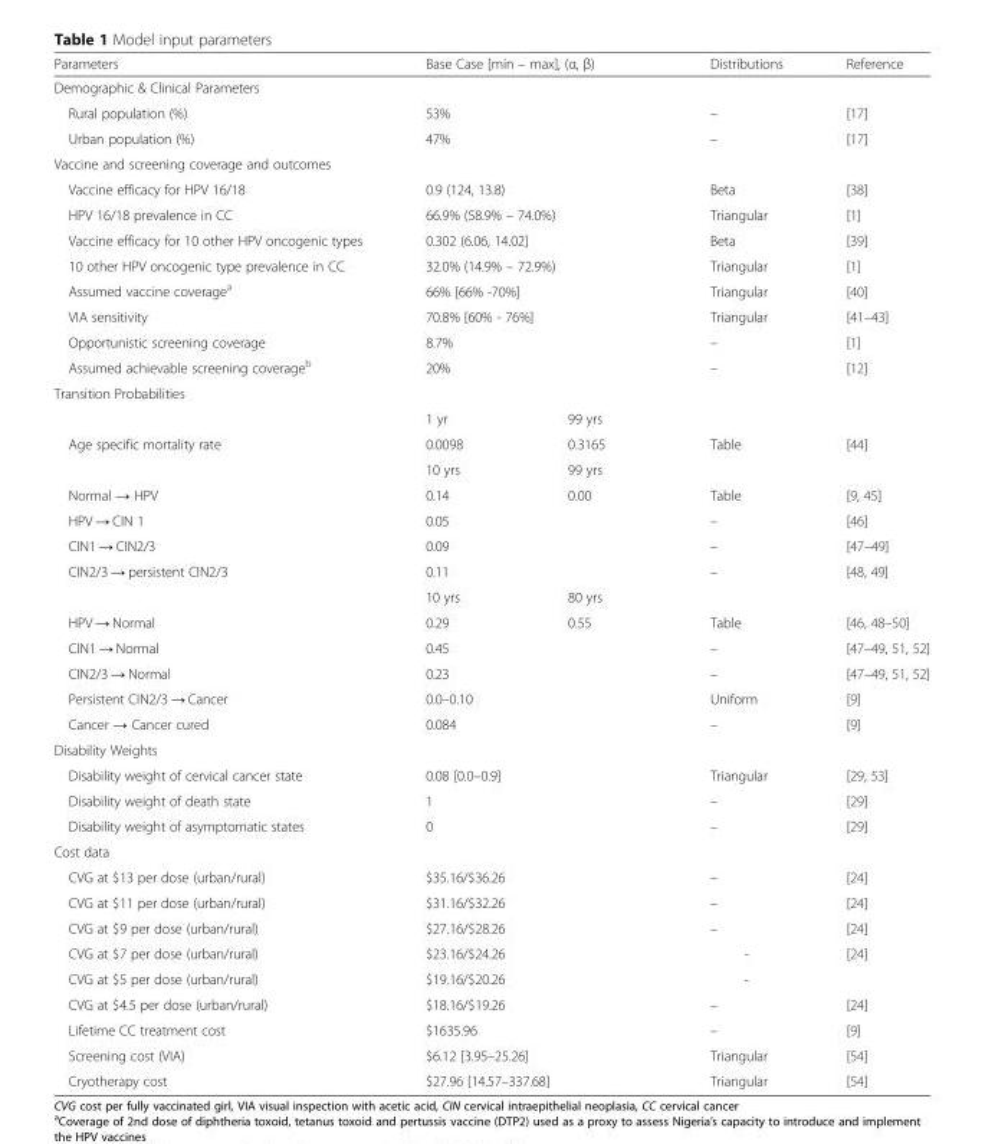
<table><thead><tr><td>Parameters</td><td colspan="2">Base Case [min – max], (α, β)</td><td>Distributions</td><td>Reference</td></tr></thead><tbody><tr><td colspan="5">Demographic &amp; Clinical Parameters</td></tr><tr><td>Rural population (%)</td><td colspan="2">53%</td><td>–</td><td>[17]</td></tr><tr><td>Urban population (%)</td><td colspan="2">47%</td><td>–</td><td>[17]</td></tr><tr><td colspan="5">Vaccine and screening coverage and outcomes</td></tr><tr><td>Vaccine efficacy for HPV 16/18</td><td colspan="2">0.9 (124, 13.8)</td><td>Beta</td><td>[38]</td></tr><tr><td>HPV 16/18 prevalence in CC</td><td colspan="2">66.9% (58.9% – 74.0%)</td><td>Triangular</td><td>[1]</td></tr><tr><td>Vaccine efficacy for 10 other HPV oncogenic types</td><td colspan="2">0.302 (6.06, 14.02]</td><td>Beta</td><td>[39]</td></tr><tr><td>10 other HPV oncogenic type prevalence in CC</td><td colspan="2">32.0% (14.9% – 72.9%)</td><td>Triangular</td><td>[1]</td></tr><tr><td>Assumed vaccine coverage<sup>a</sup></td><td colspan="2">66% [66% -70%]</td><td>Triangular</td><td>[40]</td></tr><tr><td>VIA sensitivity</td><td colspan="2">70.8% [60% - 76%]</td><td>Triangular</td><td>[41–43]</td></tr><tr><td>Opportunistic screening coverage</td><td colspan="2">8.7%</td><td>–</td><td>[1]</td></tr><tr><td>Assumed achievable screening coverage<sup>b</sup></td><td colspan="2">20%</td><td>–</td><td>[12]</td></tr><tr><td colspan="5">Transition Probabilities</td></tr><tr><td></td><td>1 yr</td><td>99 yrs</td><td></td><td></td></tr><tr><td rowspan="2">Age specific mortality rate</td><td>0.0098</td><td>0.3165</td><td>Table</td><td>[44]</td></tr><tr><td>10 yrs</td><td>99 yrs</td><td></td><td></td></tr><tr><td>Normal → HPV</td><td>0.14</td><td>0.00</td><td>Table</td><td>[9, 45]</td></tr><tr><td>HPV → CIN 1</td><td colspan="2">0.05</td><td>–</td><td>[46]</td></tr><tr><td>CIN1 → CIN2/3</td><td colspan="2">0.09</td><td>–</td><td>[47–49]</td></tr><tr><td rowspan="2">CIN2/3 → persistent CIN2/3</td><td colspan="2">0.11</td><td>–</td><td>[48, 49]</td></tr><tr><td>10 yrs</td><td>80 yrs</td><td></td><td></td></tr><tr><td>HPV → Normal</td><td>0.29</td><td>0.55</td><td>Table</td><td>[46, 48–50]</td></tr><tr><td>CIN1 → Normal</td><td colspan="2">0.45</td><td>–</td><td>[47–49, 51, 52]</td></tr><tr><td>CIN2/3 → Normal</td><td colspan="2">0.23</td><td>–</td><td>[47–49, 51, 52]</td></tr><tr><td>Persistent CIN2/3 → Cancer</td><td colspan="2">0.0–0.10</td><td>Uniform</td><td>[9]</td></tr><tr><td>Cancer → Cancer cured</td><td colspan="2">0.084</td><td>–</td><td>[9]</td></tr><tr><td colspan="5">Disability Weights</td></tr><tr><td>Disability weight of cervical cancer state</td><td colspan="2">0.08 [0.0–0.9]</td><td>Triangular</td><td>[29, 53]</td></tr><tr><td>Disability weight of death state</td><td colspan="2">1</td><td>–</td><td>[29]</td></tr><tr><td>Disability weight of asymptomatic states</td><td colspan="2">0</td><td>–</td><td>[29]</td></tr><tr><td colspan="5">Cost data</td></tr><tr><td>CVG at $13 per dose (urban/rural)</td><td colspan="2">$35.16/$36.26</td><td>–</td><td>[24]</td></tr><tr><td>CVG at $11 per dose (urban/rural)</td><td colspan="2">$31.16/$32.26</td><td>–</td><td>[24]</td></tr><tr><td>CVG at $9 per dose (urban/rural)</td><td colspan="2">$27.16/$28.26</td><td>–</td><td>[24]</td></tr><tr><td>CVG at $7 per dose (urban/rural)</td><td colspan="2">$23.16/$24.26</td><td>-</td><td>[24]</td></tr><tr><td>CVG at $5 per dose (urban/rural)</td><td colspan="2">$19.16/$20.26</td><td>-</td><td></td></tr><tr><td>CVG at $4.5 per dose (urban/rural)</td><td colspan="2">$18.16/$19.26</td><td>–</td><td>[24]</td></tr><tr><td>Lifetime CC treatment cost</td><td colspan="2">$1635.96</td><td>–</td><td>[9]</td></tr><tr><td>Screening cost (VIA)</td><td colspan="2">$6.12 [3.95–25.26]</td><td>Triangular</td><td>[54]</td></tr><tr><td>Cryotherapy cost</td><td colspan="2">$27.96 [14.57–337.68]</td><td>Triangular</td><td>[54]</td></tr></tbody></table>